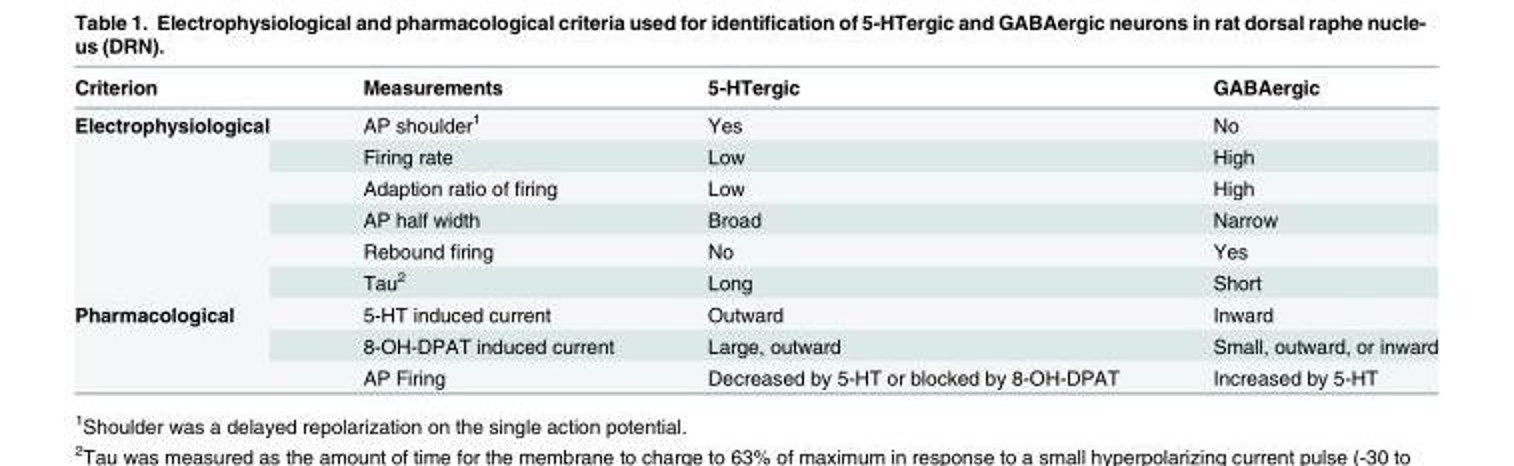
<table><thead><tr><td>Criterion</td><td>Measurements</td><td>5-HTergic</td><td>GABAergic</td></tr></thead><tbody><tr><td rowspan="6">Electrophysiological</td><td>AP shoulder<sup>1</sup></td><td>Yes</td><td>No</td></tr><tr><td>Firing rate</td><td>Low</td><td>High</td></tr><tr><td>Adaption ratio of firing</td><td>Low</td><td>High</td></tr><tr><td>AP half width</td><td>Broad</td><td>Narrow</td></tr><tr><td>Rebound firing</td><td>No</td><td>Yes</td></tr><tr><td>Tau<sup>2</sup></td><td>Long</td><td>Short</td></tr><tr><td rowspan="3">Pharmacological</td><td>5-HT induced current</td><td>Outward</td><td>Inward</td></tr><tr><td>8-OH-DPAT induced current</td><td>Large, outward</td><td>Small, outward, or inward</td></tr><tr><td>AP Firing</td><td>Decreased by 5-HT or blocked by 8-OH-DPAT</td><td>Increased by 5-HT</td></tr></tbody></table>